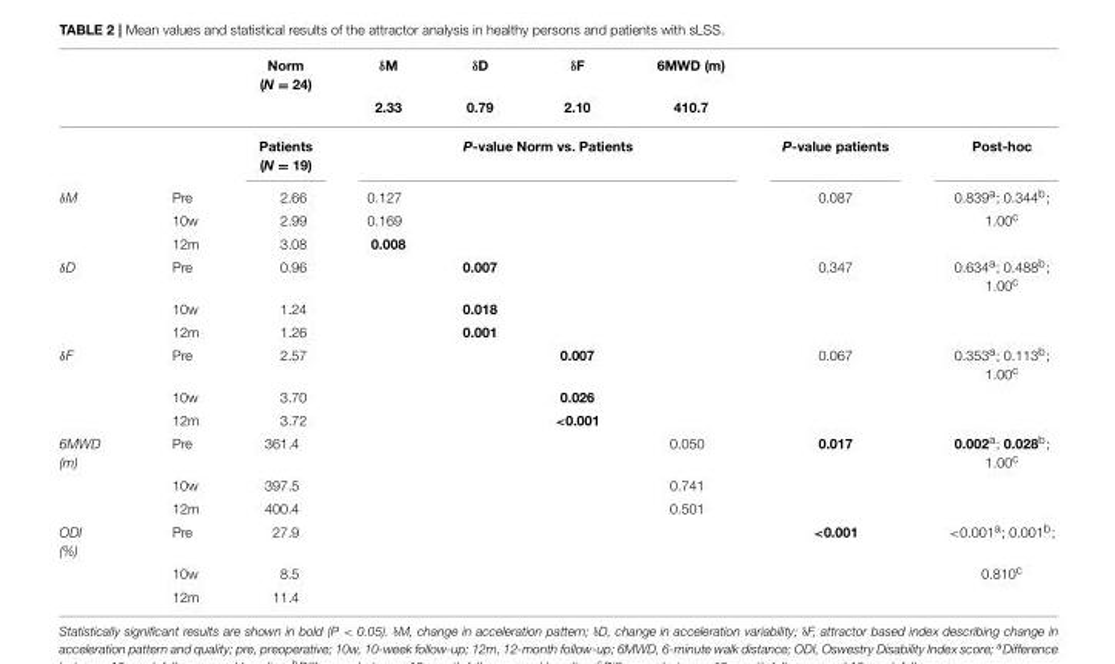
<table><thead><tr><td rowspan="2"></td><td rowspan="2"></td><td rowspan="2">Norm (N = 24)</td><td rowspan="2">δM 2.33</td><td rowspan="2">δD 0.79</td><td rowspan="2">δF 2.10</td><td rowspan="2">6MWD (m) 410.7</td><td rowspan="2"></td><td rowspan="2"></td></tr><tr></tr></thead><tbody><tr><td></td><td></td><td>Patients (N = 19)</td><td colspan="4">P-value Norm vs. Patients</td><td>P-value patients</td><td>Post-hoc</td></tr><tr><td rowspan="3">δM</td><td>Pre</td><td>2.66</td><td>0.127</td><td></td><td></td><td></td><td>0.087</td><td>0.839<sup>a</sup>; 0.344<sup>b</sup>;</td></tr><tr><td>10w</td><td>2.99</td><td>0.169</td><td></td><td></td><td></td><td></td><td>1.00<sup>c</sup></td></tr><tr><td>12m</td><td>3.08</td><td>0.008</td><td></td><td></td><td></td><td></td><td></td></tr><tr><td rowspan="3">δD</td><td>Pre</td><td>0.96</td><td></td><td>0.007</td><td></td><td></td><td>0.347</td><td>0.634<sup>a</sup>; 0.488<sup>b</sup>; 1.00<sup>c</sup></td></tr><tr><td>10w</td><td>1.24</td><td></td><td>0.018</td><td></td><td></td><td></td><td></td></tr><tr><td>12m</td><td>1.26</td><td></td><td>0.001</td><td></td><td></td><td></td><td></td></tr><tr><td rowspan="3">δF</td><td>Pre</td><td>2.57</td><td></td><td></td><td>0.007</td><td></td><td>0.067</td><td>0.353<sup>a</sup>; 0.113<sup>b</sup>; 1.00<sup>c</sup></td></tr><tr><td>10w</td><td>3.70</td><td></td><td></td><td>0.026</td><td></td><td></td><td></td></tr><tr><td>12m</td><td>3.72</td><td></td><td></td><td>&lt;0.001</td><td></td><td></td><td></td></tr><tr><td rowspan="3">6MWD (m)</td><td>Pre</td><td>361.4</td><td></td><td></td><td></td><td>0.050</td><td>0.017</td><td>0.002<sup>a</sup>; 0.028<sup>b</sup>; 1.00<sup>c</sup></td></tr><tr><td>10w</td><td>397.5</td><td></td><td></td><td></td><td>0.741</td><td></td><td></td></tr><tr><td>12m</td><td>400.4</td><td></td><td></td><td></td><td>0.501</td><td></td><td></td></tr><tr><td rowspan="3">ODI (%)</td><td>Pre</td><td>27.9</td><td></td><td></td><td></td><td></td><td>&lt;0.001</td><td>&lt;0.001<sup>a</sup>; 0.001<sup>b</sup>;</td></tr><tr><td>10w</td><td>8.5</td><td></td><td></td><td></td><td></td><td></td><td>0.810<sup>c</sup></td></tr><tr><td>12m</td><td>11.4</td><td></td><td></td><td></td><td></td><td></td><td></td></tr></tbody></table>